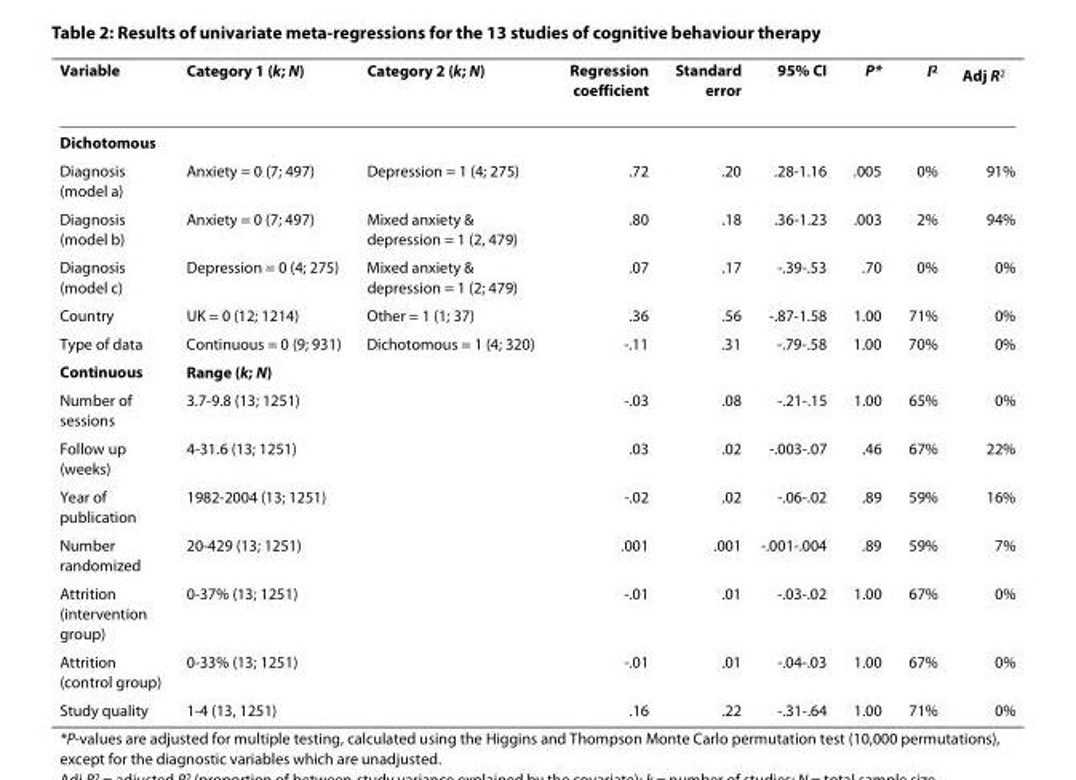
<table><thead><tr><td>Variable</td><td>Category 1 (k; N)</td><td>Category 2 (k; N)</td><td>Regression coefficient</td><td>Standard error</td><td>95% CI</td><td>P*</td><td>I<sup>2</sup></td><td>Adj R<sup>2</sup></td></tr></thead><tbody><tr><td colspan="9">Dichotomous</td></tr><tr><td>Diagnosis (model a)</td><td>Anxiety = 0 (7; 497)</td><td>Depression = 1 (4; 275)</td><td>.72</td><td>.20</td><td>.28-1.16</td><td>.005</td><td>0%</td><td>91%</td></tr><tr><td>Diagnosis (model b)</td><td>Anxiety = 0 (7; 497)</td><td>Mixed anxiety &amp; depression = 1 (2, 479)</td><td>.80</td><td>.18</td><td>.36-1.23</td><td>.003</td><td>2%</td><td>94%</td></tr><tr><td>Diagnosis (model c)</td><td>Depression = 0 (4; 275)</td><td>Mixed anxiety &amp; depression = 1 (2; 479)</td><td>.07</td><td>.17</td><td>-.39-.53</td><td>.70</td><td>0%</td><td>0%</td></tr><tr><td>Country</td><td>UK = 0 (12; 1214)</td><td>Other = 1 (1; 37)</td><td>.36</td><td>.56</td><td>-.87-1.58</td><td>1.00</td><td>71%</td><td>0%</td></tr><tr><td>Type of data</td><td>Continuous = 0 (9; 931)</td><td>Dichotomous = 1 (4; 320)</td><td>-.11</td><td>.31</td><td>-.79-.58</td><td>1.00</td><td>70%</td><td>0%</td></tr><tr><td>Continuous</td><td colspan="2">Range (k; N)</td><td></td><td></td><td></td><td></td><td></td><td></td></tr><tr><td>Number of sessions</td><td colspan="2">3.7-9.8 (13; 1251)</td><td>-.03</td><td>.08</td><td>-.21-.15</td><td>1.00</td><td>65%</td><td>0%</td></tr><tr><td>Follow up (weeks)</td><td colspan="2">4-31.6 (13; 1251)</td><td>.03</td><td>.02</td><td>-.003-.07</td><td>.46</td><td>67%</td><td>22%</td></tr><tr><td>Year of publication</td><td colspan="2">1982-2004 (13; 1251)</td><td>-.02</td><td>.02</td><td>-.06-.02</td><td>.89</td><td>59%</td><td>16%</td></tr><tr><td>Number randomized</td><td colspan="2">20-429 (13; 1251)</td><td>.001</td><td>.001</td><td>-.001-.004</td><td>.89</td><td>59%</td><td>7%</td></tr><tr><td>Attrition (intervention group)</td><td colspan="2">0-37% (13; 1251)</td><td>-.01</td><td>.01</td><td>-.03-.02</td><td>1.00</td><td>67%</td><td>0%</td></tr><tr><td>Attrition (control group)</td><td colspan="2">0-33% (13; 1251)</td><td>-.01</td><td>.01</td><td>-.04-.03</td><td>1.00</td><td>67%</td><td>0%</td></tr><tr><td>Study quality</td><td colspan="2">1-4 (13, 1251)</td><td>.16</td><td>.22</td><td>-.31-.64</td><td>1.00</td><td>71%</td><td>0%</td></tr></tbody></table>